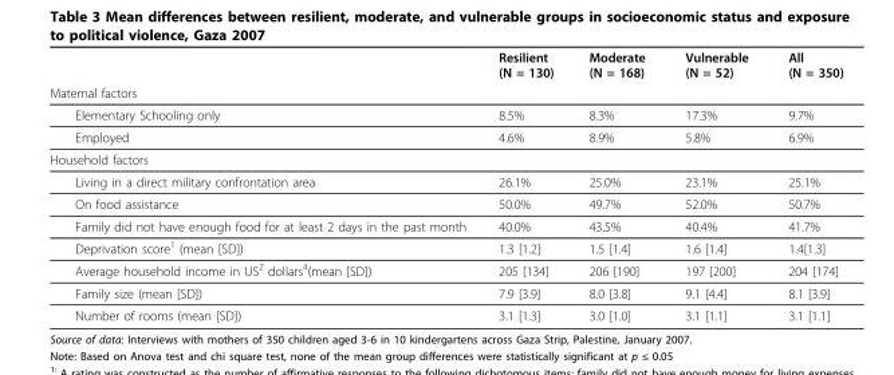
<table><thead><tr><td rowspan="2">Maternal factors</td><td rowspan="2">Resilient (N = 130)</td><td rowspan="2">Moderate (N = 168)</td><td rowspan="2">Vulnerable (N = 52)</td><td rowspan="2">All (N = 350)</td></tr><tr></tr></thead><tbody><tr><td>Elementary Schooling only</td><td>8.5%</td><td>8.3%</td><td>17.3%</td><td>9.7%</td></tr><tr><td>Employed</td><td>4.6%</td><td>8.9%</td><td>5.8%</td><td>6.9%</td></tr><tr><td colspan="5">Household factors</td></tr><tr><td>Living in a direct military confrontation area</td><td>26.1%</td><td>25.0%</td><td>23.1%</td><td>25.1%</td></tr><tr><td>On food assistance</td><td>50.0%</td><td>49.7%</td><td>52.0%</td><td>50.7%</td></tr><tr><td>Family did not have enough food for at least 2 days in the past month</td><td>40.0%</td><td>43.5%</td><td>40.4%</td><td>41.7%</td></tr><tr><td>Deprivation score<sup>1</sup> (mean [SD])</td><td>1.3 [1.2]</td><td>1.5 [1.4]</td><td>1.6 [1.4]</td><td>1.4[1.3]</td></tr><tr><td>Average household income in US<sup>2</sup> dollars<sup>4</sup>(mean [SD])</td><td>205 [134]</td><td>206 [190]</td><td>197 [200]</td><td>204 [174]</td></tr><tr><td>Family size (mean [SD])</td><td>7.9 [3.9]</td><td>8.0 [3.8]</td><td>9.1 [4.4]</td><td>8.1 [3.9]</td></tr><tr><td>Number of rooms (mean [SD])</td><td>3.1 [1.3]</td><td>3.0 [1.0]</td><td>3.1 [1.1]</td><td>3.1 [1.1]</td></tr></tbody></table>